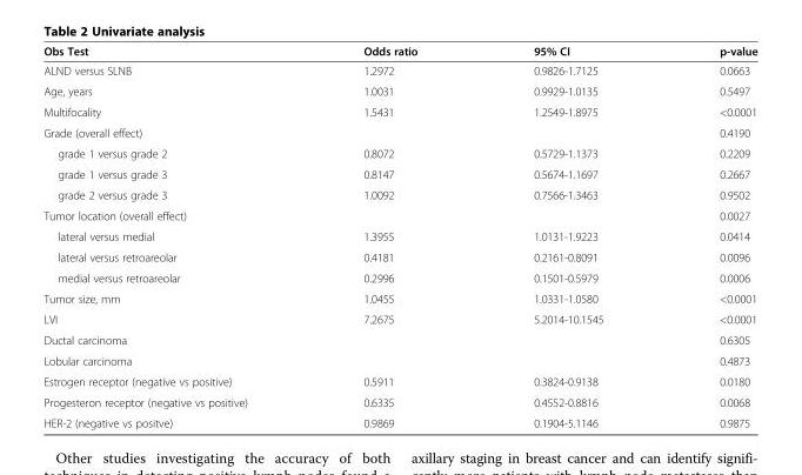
<table><thead><tr><td>Obs Test</td><td>Odds ratio</td><td>95% CI</td><td>p-value</td></tr></thead><tbody><tr><td>ALND versus SLNB</td><td>1.2972</td><td>0.9826-1.7125</td><td>0.0663</td></tr><tr><td>Age, years</td><td>1.0031</td><td>0.9929-1.0135</td><td>0.5497</td></tr><tr><td>Multifocality</td><td>1.5431</td><td>1.2549-1.8975</td><td>&lt;0.0001</td></tr><tr><td>Grade (overall effect)</td><td></td><td></td><td>0.4190</td></tr><tr><td>grade 1 versus grade 2</td><td>0.8072</td><td>0.5729-1.1373</td><td>0.2209</td></tr><tr><td>grade 1 versus grade 3</td><td>0.8147</td><td>0.5674-1.1697</td><td>0.2667</td></tr><tr><td>grade 2 versus grade 3</td><td>1.0092</td><td>0.7566-1.3463</td><td>0.9502</td></tr><tr><td>Tumor location (overall effect)</td><td></td><td></td><td>0.0027</td></tr><tr><td>lateral versus medial</td><td>1.3955</td><td>1.0131-1.9223</td><td>0.0414</td></tr><tr><td>lateral versus retroareolar</td><td>0.4181</td><td>0.2161-0.8091</td><td>0.0096</td></tr><tr><td>medial versus retroareolar</td><td>0.2996</td><td>0.1501-0.5979</td><td>0.0006</td></tr><tr><td>Tumor size, mm</td><td>1.0455</td><td>1.0331-1.0580</td><td>&lt;0.0001</td></tr><tr><td>LVI</td><td>7.2675</td><td>5.2014-10.1545</td><td>&lt;0.0001</td></tr><tr><td>Ductal carcinoma</td><td></td><td></td><td>0.6305</td></tr><tr><td>Lobular carcinoma</td><td></td><td></td><td>0.4873</td></tr><tr><td>Estrogen receptor (negative vs positive)</td><td>0.5911</td><td>0.3824-0.9138</td><td>0.0180</td></tr><tr><td>Progesteron receptor (negative vs positive)</td><td>0.6335</td><td>0.4552-0.8816</td><td>0.0068</td></tr><tr><td>HER-2 (negative vs positve)</td><td>0.9869</td><td>0.1904-5.1146</td><td>0.9875</td></tr></tbody></table>